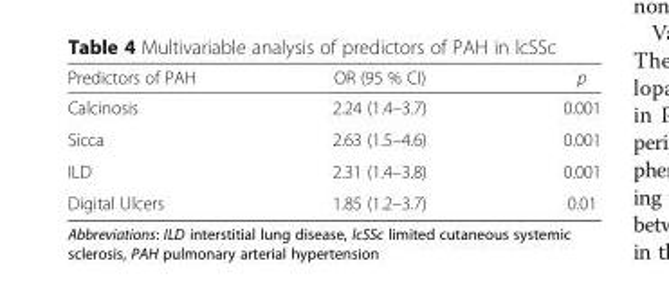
<table><thead><tr><td>Predictors of PAH</td><td>OR (95 % CI)</td><td>p</td></tr></thead><tbody><tr><td>Calcinosis</td><td>2.24 (1.4–3.7)</td><td>0.001</td></tr><tr><td>Sicca</td><td>2.63 (1.5–4.6)</td><td>0.001</td></tr><tr><td>ILD</td><td>2.31 (1.4–3.8)</td><td>0.001</td></tr><tr><td>Digital Ulcers</td><td>1.85 (1.2–3.7)</td><td>0.01</td></tr></tbody></table>